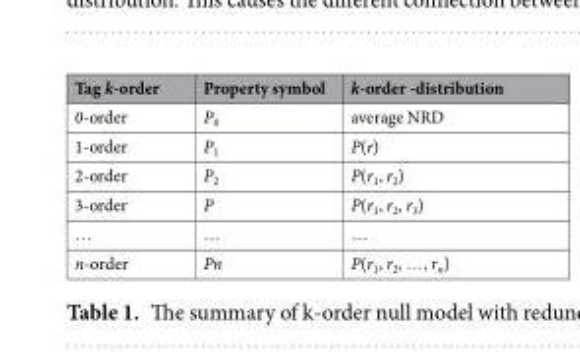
<table><thead><tr><td>Tag k-order</td><td>Property symbol</td><td>k-order -distribution</td></tr></thead><tbody><tr><td>0-order</td><td>P<sub>0</sub></td><td>average NRD</td></tr><tr><td>1-order</td><td>P<sub>1</sub></td><td>P(r)</td></tr><tr><td>2-order</td><td>P<sub>2</sub></td><td>P(r<sub>1</sub>, r<sub>2</sub>)</td></tr><tr><td>3-order</td><td>P</td><td>P(r<sub>1</sub>, r<sub>2</sub>, r<sub>3</sub>)</td></tr><tr><td>…</td><td>…</td><td>…</td></tr><tr><td>n-order</td><td>Pn</td><td>P(r<sub>1</sub>, r<sub>2</sub>, …, r<sub>n</sub>)</td></tr></tbody></table>